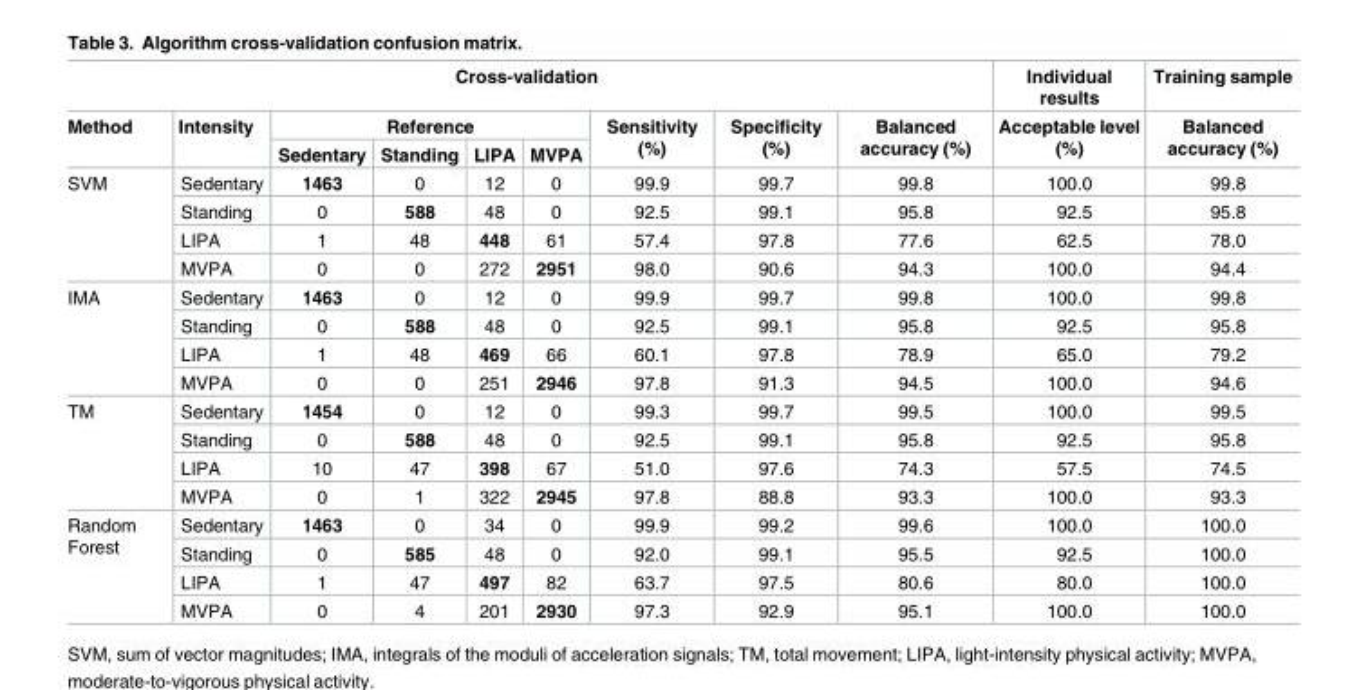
<table><thead><tr><td colspan="9">Cross-validation</td><td rowspan="3">Individual results Acceptable level (%)</td><td rowspan="3">Training sample Balanced accuracy (%)</td></tr><tr><td rowspan="2">Method</td><td rowspan="2">Intensity</td><td colspan="4">Reference</td><td rowspan="2">Sensitivity (%)</td><td rowspan="2">Specificity (%)</td><td rowspan="2">Balanced accuracy (%)</td></tr><tr><td>Sedentary</td><td>Standing</td><td>LIPA</td><td>MVPA</td></tr></thead><tbody><tr><td rowspan="4">SVM</td><td>Sedentary</td><td>1463</td><td>0</td><td>12</td><td>0</td><td>99.9</td><td>99.7</td><td>99.8</td><td>100.0</td><td>99.8</td></tr><tr><td>Standing</td><td>0</td><td>588</td><td>48</td><td>0</td><td>92.5</td><td>99.1</td><td>95.8</td><td>92.5</td><td>95.8</td></tr><tr><td>LIPA</td><td>1</td><td>48</td><td>448</td><td>61</td><td>57.4</td><td>97.8</td><td>77.6</td><td>62.5</td><td>78.0</td></tr><tr><td>MVPA</td><td>0</td><td>0</td><td>272</td><td>2951</td><td>98.0</td><td>90.6</td><td>94.3</td><td>100.0</td><td>94.4</td></tr><tr><td rowspan="4">IMA</td><td>Sedentary</td><td>1463</td><td>0</td><td>12</td><td>0</td><td>99.9</td><td>99.7</td><td>99.8</td><td>100.0</td><td>99.8</td></tr><tr><td>Standing</td><td>0</td><td>588</td><td>48</td><td>0</td><td>92.5</td><td>99.1</td><td>95.8</td><td>92.5</td><td>95.8</td></tr><tr><td>LIPA</td><td>1</td><td>48</td><td>469</td><td>66</td><td>60.1</td><td>97.8</td><td>78.9</td><td>65.0</td><td>79.2</td></tr><tr><td>MVPA</td><td>0</td><td>0</td><td>251</td><td>2946</td><td>97.8</td><td>91.3</td><td>94.5</td><td>100.0</td><td>94.6</td></tr><tr><td rowspan="4">TM</td><td>Sedentary</td><td>1454</td><td>0</td><td>12</td><td>0</td><td>99.3</td><td>99.7</td><td>99.5</td><td>100.0</td><td>99.5</td></tr><tr><td>Standing</td><td>0</td><td>588</td><td>48</td><td>0</td><td>92.5</td><td>99.1</td><td>95.8</td><td>92.5</td><td>95.8</td></tr><tr><td>LIPA</td><td>10</td><td>47</td><td>398</td><td>67</td><td>51.0</td><td>97.6</td><td>74.3</td><td>57.5</td><td>74.5</td></tr><tr><td>MVPA</td><td>0</td><td>1</td><td>322</td><td>2945</td><td>97.8</td><td>88.8</td><td>93.3</td><td>100.0</td><td>93.3</td></tr><tr><td rowspan="4">Random Forest</td><td>Sedentary</td><td>1463</td><td>0</td><td>34</td><td>0</td><td>99.9</td><td>99.2</td><td>99.6</td><td>100.0</td><td>100.0</td></tr><tr><td>Standing</td><td>0</td><td>585</td><td>48</td><td>0</td><td>92.0</td><td>99.1</td><td>95.5</td><td>92.5</td><td>100.0</td></tr><tr><td>LIPA</td><td>1</td><td>47</td><td>497</td><td>82</td><td>63.7</td><td>97.5</td><td>80.6</td><td>80.0</td><td>100.0</td></tr><tr><td>MVPA</td><td>0</td><td>4</td><td>201</td><td>2930</td><td>97.3</td><td>92.9</td><td>95.1</td><td>100.0</td><td>100.0</td></tr></tbody></table>